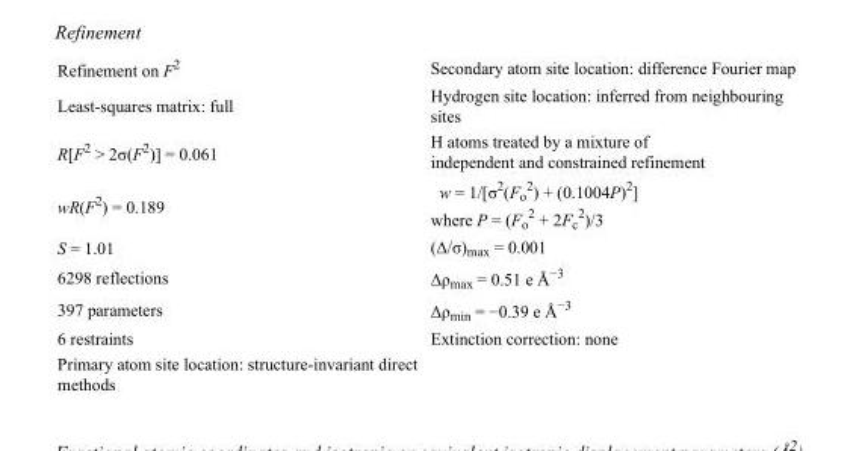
<table><tbody><tr><td>Refinement on F<sup>2</sup></td><td>Secondary atom site location: difference Fourier map</td></tr><tr><td>Least-squares matrix: full</td><td>Hydrogen site location: inferred from neighbouring sites</td></tr><tr><td>R[F<sup>2</sup> &gt; 2σ(F<sup>2</sup>)] = 0.061</td><td>H atoms treated by a mixture of independent and constrained refinement</td></tr><tr><td>wR(F<sup>2</sup>) = 0.189</td><td>w = 1/[σ<sup>2</sup>(F<sub>o</sub> <sup>2</sup>) + (0.1004P)<sup>2</sup>] where P = (F<sub>o</sub> <sup>2</sup> + 2F<sub>c</sub> <sup>2</sup>)/3</td></tr><tr><td>S = 1.01</td><td>(Δ/σ)<sub>max</sub> = 0.001</td></tr><tr><td>6298 reflections</td><td>Δρ<sub>max</sub> = 0.51 e Å<sup>−3</sup></td></tr><tr><td>397 parameters</td><td>Δρ<sub>min</sub> = −0.39 e Å<sup>−3</sup></td></tr><tr><td>6 restraints</td><td>Extinction correction: none</td></tr><tr><td>Primary atom site location: structure-invariant direct methods</td><td></td></tr></tbody></table>